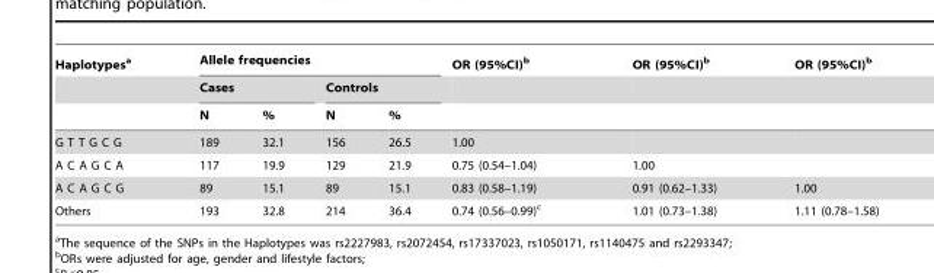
<table><thead><tr><td rowspan="3">Haplotypes<sup>a</sup></td><td colspan="4">Allele frequencies</td><td rowspan="3">OR (95%CI)<sup>b</sup></td><td rowspan="3">OR (95%CI)<sup>b</sup></td><td rowspan="3">OR (95%CI)<sup>b</sup></td></tr><tr><td colspan="2">Cases</td><td colspan="2">Controls</td></tr><tr><td>N</td><td>%</td><td>N</td><td>%</td></tr></thead><tbody><tr><td>G T T G C G</td><td>189</td><td>32.1</td><td>156</td><td>26.5</td><td>1.00</td><td></td><td></td></tr><tr><td>A C A G C A</td><td>117</td><td>19.9</td><td>129</td><td>21.9</td><td>0.75 (0.54–1.04)</td><td>1.00</td><td></td></tr><tr><td>A C A G C G</td><td>89</td><td>15.1</td><td>89</td><td>15.1</td><td>0.83 (0.58–1.19)</td><td>0.91 (0.62–1.33)</td><td>1.00</td></tr><tr><td>Others</td><td>193</td><td>32.8</td><td>214</td><td>36.4</td><td>0.74 (0.56–0.99)<sup>c</sup></td><td>1.01 (0.73–1.38)</td><td>1.11 (0.78–1.58)</td></tr></tbody></table>